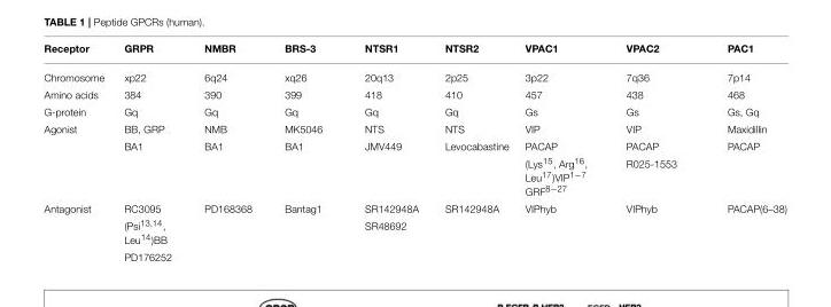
<table><thead><tr><td>Receptor</td><td>GRPR</td><td>NMBR</td><td>BRS-3</td><td>NTSR1</td><td>NTSR2</td><td>VPAC1</td><td>VPAC2</td><td>PAC1</td></tr></thead><tbody><tr><td>Chromosome</td><td>xp22</td><td>6q24</td><td>xq26</td><td>20q13</td><td>2p25</td><td>3p22</td><td>7q36</td><td>7p14</td></tr><tr><td>Amino acids</td><td>384</td><td>390</td><td>399</td><td>418</td><td>410</td><td>457</td><td>438</td><td>468</td></tr><tr><td>G-protein</td><td>Gq</td><td>Gq</td><td>Gq</td><td>Gq</td><td>Gq</td><td>Gs</td><td>Gs</td><td>Gs, Gq</td></tr><tr><td rowspan="3">Agonist</td><td>BB, GRP</td><td>NMB</td><td>MK5046</td><td>NTS</td><td>NTS</td><td>VIP</td><td>VIP</td><td>Maxidillin</td></tr><tr><td>BA1</td><td>BA1</td><td>BA1</td><td>JMV449</td><td>Levocabastine</td><td>PACAP</td><td>PACAP</td><td>PACAP</td></tr><tr><td></td><td></td><td></td><td></td><td></td><td>(Lys<sup>15</sup>, Arg<sup>16</sup>, Leu<sup>17</sup>)VIP<sup>1−7</sup> GRF<sup>8−27</sup></td><td>R025-1553</td><td></td></tr><tr><td rowspan="3">Antagonist</td><td>RC3095</td><td>PD168368</td><td>Bantag1</td><td>SR142948A</td><td>SR142948A</td><td>VIPhyb</td><td>VIPhyb</td><td>PACAP(6–38)</td></tr><tr><td>(Psi<sup>13,14</sup>, Leu<sup>14</sup>)BB</td><td></td><td></td><td>SR48692</td><td></td><td></td><td></td><td></td></tr><tr><td>PD176252</td><td></td><td></td><td></td><td></td><td></td><td></td><td></td></tr></tbody></table>